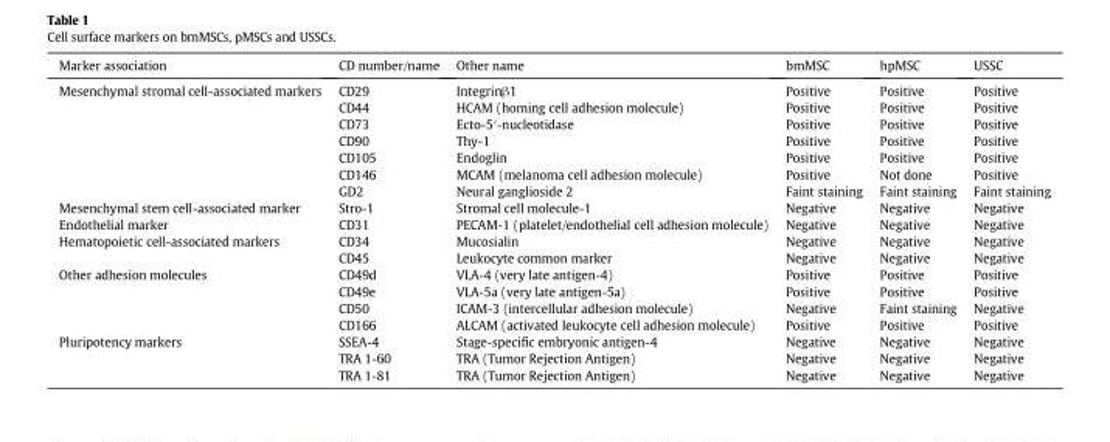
<table><thead><tr><td>Marker association</td><td>CD number/name</td><td>Other name</td><td>bmMSC</td><td>hpMSC</td><td>USSC</td></tr></thead><tbody><tr><td rowspan="7">Mesenchymal stromal cell-associated markers</td><td>CD29</td><td>Integrinβ1</td><td>Positive</td><td>Positive</td><td>Positive</td></tr><tr><td>CD44</td><td>HCAM (homing cell adhesion molecule)</td><td>Positive</td><td>Positive</td><td>Positive</td></tr><tr><td>CD73</td><td>Ecto-5′-nucleotidase</td><td>Positive</td><td>Positive</td><td>Positive</td></tr><tr><td>CD90</td><td>Thy-1</td><td>Positive</td><td>Positive</td><td>Positive</td></tr><tr><td>CD105</td><td>Endoglin</td><td>Positive</td><td>Positive</td><td>Positive</td></tr><tr><td>CD146</td><td>MCAM (melanoma cell adhesion molecule)</td><td>Positive</td><td>Not done</td><td>Positive</td></tr><tr><td>GD2</td><td>Neural ganglioside 2</td><td>Faint staining</td><td>Faint staining</td><td>Faint staining</td></tr><tr><td>Mesenchymal stem cell-associated marker</td><td>Stro-1</td><td>Stromal cell molecule-1</td><td>Negative</td><td>Negative</td><td>Negative</td></tr><tr><td>Endothelial marker</td><td>CD31</td><td>PECAM-1 (platelet/endothelial cell adhesion molecule)</td><td>Negative</td><td>Negative</td><td>Negative</td></tr><tr><td rowspan="2">Hematopoietic cell-associated markers</td><td>CD34</td><td>Mucosialin</td><td>Negative</td><td>Negative</td><td>Negative</td></tr><tr><td>CD45</td><td>Leukocyte common marker</td><td>Negative</td><td>Negative</td><td>Negative</td></tr><tr><td rowspan="4">Other adhesion molecules</td><td>CD49d</td><td>VLA-4 (very late antigen-4)</td><td>Positive</td><td>Positive</td><td>Positive</td></tr><tr><td>CD49e</td><td>VLA-5a (very late antigen-5a)</td><td>Positive</td><td>Positive</td><td>Positive</td></tr><tr><td>CD50</td><td>ICAM-3 (intercellular adhesion molecule)</td><td>Negative</td><td>Faint staining</td><td>Negative</td></tr><tr><td>CD166</td><td>ALCAM (activated leukocyte cell adhesion molecule)</td><td>Positive</td><td>Positive</td><td>Positive</td></tr><tr><td rowspan="3">Pluripotency markers</td><td>SSEA-4</td><td>Stage-specific embryonic antigen-4</td><td>Negative</td><td>Negative</td><td>Negative</td></tr><tr><td>TRA 1-60</td><td>TRA (Tumor Rejection Antigen)</td><td>Negative</td><td>Negative</td><td>Negative</td></tr><tr><td>TRA 1-81</td><td>TRA (Tumor Rejection Antigen)</td><td>Negative</td><td>Negative</td><td>Negative</td></tr></tbody></table>